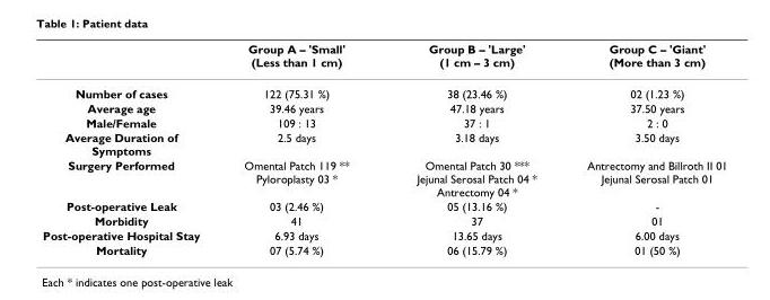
<table><thead><tr><td></td><td>Group A – &#x27;Small&#x27; (Less than 1 cm)</td><td>Group B – &#x27;Large&#x27; (1 cm – 3 cm)</td><td>Group C – &#x27;Giant&#x27; (More than 3 cm)</td></tr></thead><tbody><tr><td>Number of cases</td><td>122 (75.31 %)</td><td>38 (23.46 %)</td><td>02 (1.23 %)</td></tr><tr><td>Average age</td><td>39.46 years</td><td>47.18 years</td><td>37.50 years</td></tr><tr><td>Male/Female</td><td>109 : 13</td><td>37 : 1</td><td>2 : 0</td></tr><tr><td>Average Duration of Symptoms</td><td>2.5 days</td><td>3.18 days</td><td>3.50 days</td></tr><tr><td>Surgery Performed</td><td>Omental Patch 119 ** Pyloroplasty 03 *</td><td>Omental Patch 30 *** Jejunal Serosal Patch 04 * Antrectomy 04 *</td><td>Antrectomy and Billroth II 01 Jejunal Serosal Patch 01</td></tr><tr><td>Post-operative Leak</td><td>03 (2.46 %)</td><td>05 (13.16 %)</td><td>-</td></tr><tr><td>Morbidity</td><td>41</td><td>37</td><td>01</td></tr><tr><td>Post-operative Hospital Stay</td><td>6.93 days</td><td>13.65 days</td><td>6.00 days</td></tr><tr><td>Mortality</td><td>07 (5.74 %)</td><td>06 (15.79 %)</td><td>01 (50 %)</td></tr></tbody></table>